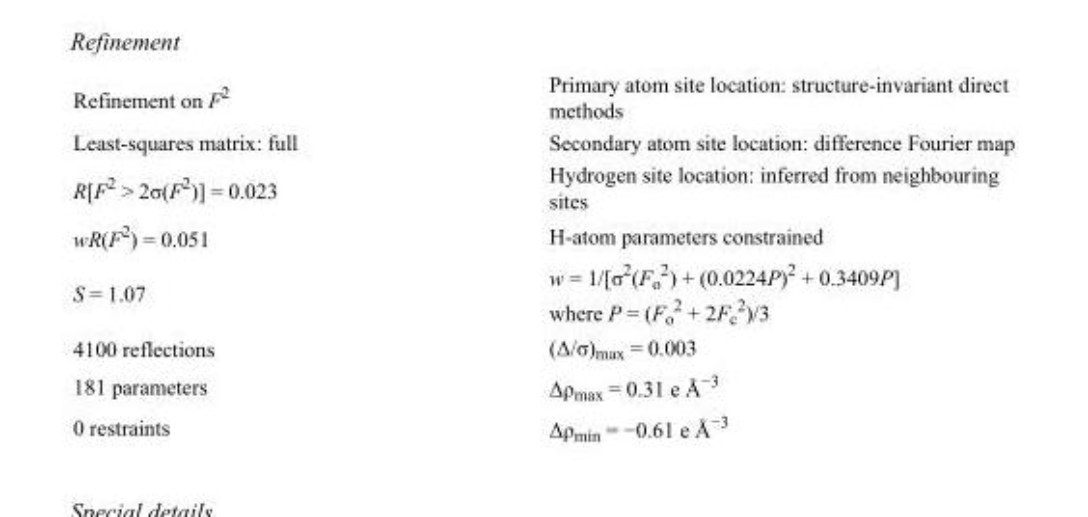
<table><tbody><tr><td>Refinement on F<sup>2</sup></td><td>Primary atom site location: structure-invariant direct methods</td></tr><tr><td>Least-squares matrix: full</td><td>Secondary atom site location: difference Fourier map</td></tr><tr><td>R[F<sup>2</sup> &gt; 2σ(F<sup>2</sup>)] = 0.023</td><td>Hydrogen site location: inferred from neighbouring sites</td></tr><tr><td>wR(F<sup>2</sup>) = 0.051</td><td>H-atom parameters constrained</td></tr><tr><td>S = 1.07</td><td>w = 1/[σ<sup>2</sup>(F<sub>o</sub> <sup>2</sup>) + (0.0224P)<sup>2</sup> + 0.3409P] where P = (F<sub>o</sub> <sup>2</sup> + 2F<sub>c</sub> <sup>2</sup>)/3</td></tr><tr><td>4100 reflections</td><td>(Δ/σ)<sub>max</sub> = 0.003</td></tr><tr><td>181 parameters</td><td>Δρ<sub>max</sub> = 0.31 e Å<sup>−3</sup></td></tr><tr><td>0 restraints</td><td>Δρ<sub>min</sub> = −0.61 e Å<sup>−3</sup></td></tr></tbody></table>